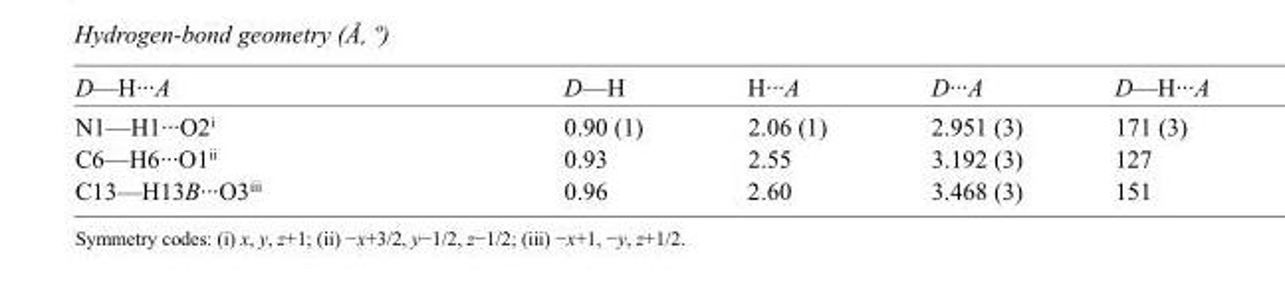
<table><tbody><tr><td>D—H···A</td><td>D—H</td><td>H···A</td><td>D···A</td><td>D—H···A</td></tr><tr><td>N1—H1···O2<sup>i</sup></td><td>0.90 (1)</td><td>2.06 (1)</td><td>2.951 (3)</td><td>171 (3)</td></tr><tr><td>C6—H6···O1<sup>ii</sup></td><td>0.93</td><td>2.55</td><td>3.192 (3)</td><td>127</td></tr><tr><td>C13—H13B···O3<sup>iii</sup></td><td>0.96</td><td>2.60</td><td>3.468 (3)</td><td>151</td></tr></tbody></table>